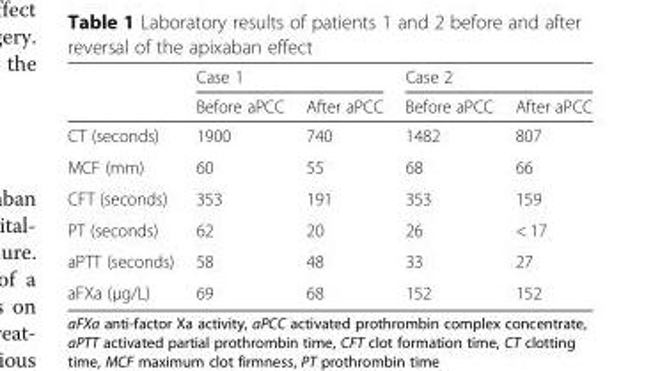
<table><thead><tr><td rowspan="2"></td><td colspan="2">Case 1</td><td colspan="2">Case 2</td></tr><tr><td>Before aPCC</td><td>After aPCC</td><td>Before aPCC</td><td>After aPCC</td></tr></thead><tbody><tr><td>CT (seconds)</td><td>1900</td><td>740</td><td>1482</td><td>807</td></tr><tr><td>MCF (mm)</td><td>60</td><td>55</td><td>68</td><td>66</td></tr><tr><td>CFT (seconds)</td><td>353</td><td>191</td><td>353</td><td>159</td></tr><tr><td>PT (seconds)</td><td>62</td><td>20</td><td>26</td><td>&lt; 17</td></tr><tr><td>aPTT (seconds)</td><td>58</td><td>48</td><td>33</td><td>27</td></tr><tr><td>aFXa (μg/L)</td><td>69</td><td>68</td><td>152</td><td>152</td></tr></tbody></table>